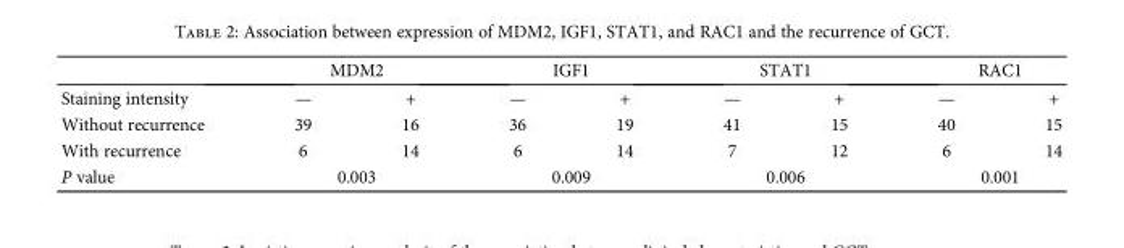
<table><thead><tr><td rowspan="2">Staining intensity</td><td colspan="2">MDM2</td><td colspan="2">IGF1</td><td colspan="2">STAT1</td><td colspan="2">RAC1</td></tr><tr><td>—</td><td>+</td><td>—</td><td>+</td><td>—</td><td>+</td><td>—</td><td>+</td></tr></thead><tbody><tr><td>Without recurrence</td><td>39</td><td>16</td><td>36</td><td>19</td><td>41</td><td>15</td><td>40</td><td>15</td></tr><tr><td>With recurrence</td><td>6</td><td>14</td><td>6</td><td>14</td><td>7</td><td>12</td><td>6</td><td>14</td></tr><tr><td>P value</td><td colspan="2">0.003</td><td colspan="2">0.009</td><td colspan="2">0.006</td><td colspan="2">0.001</td></tr></tbody></table>